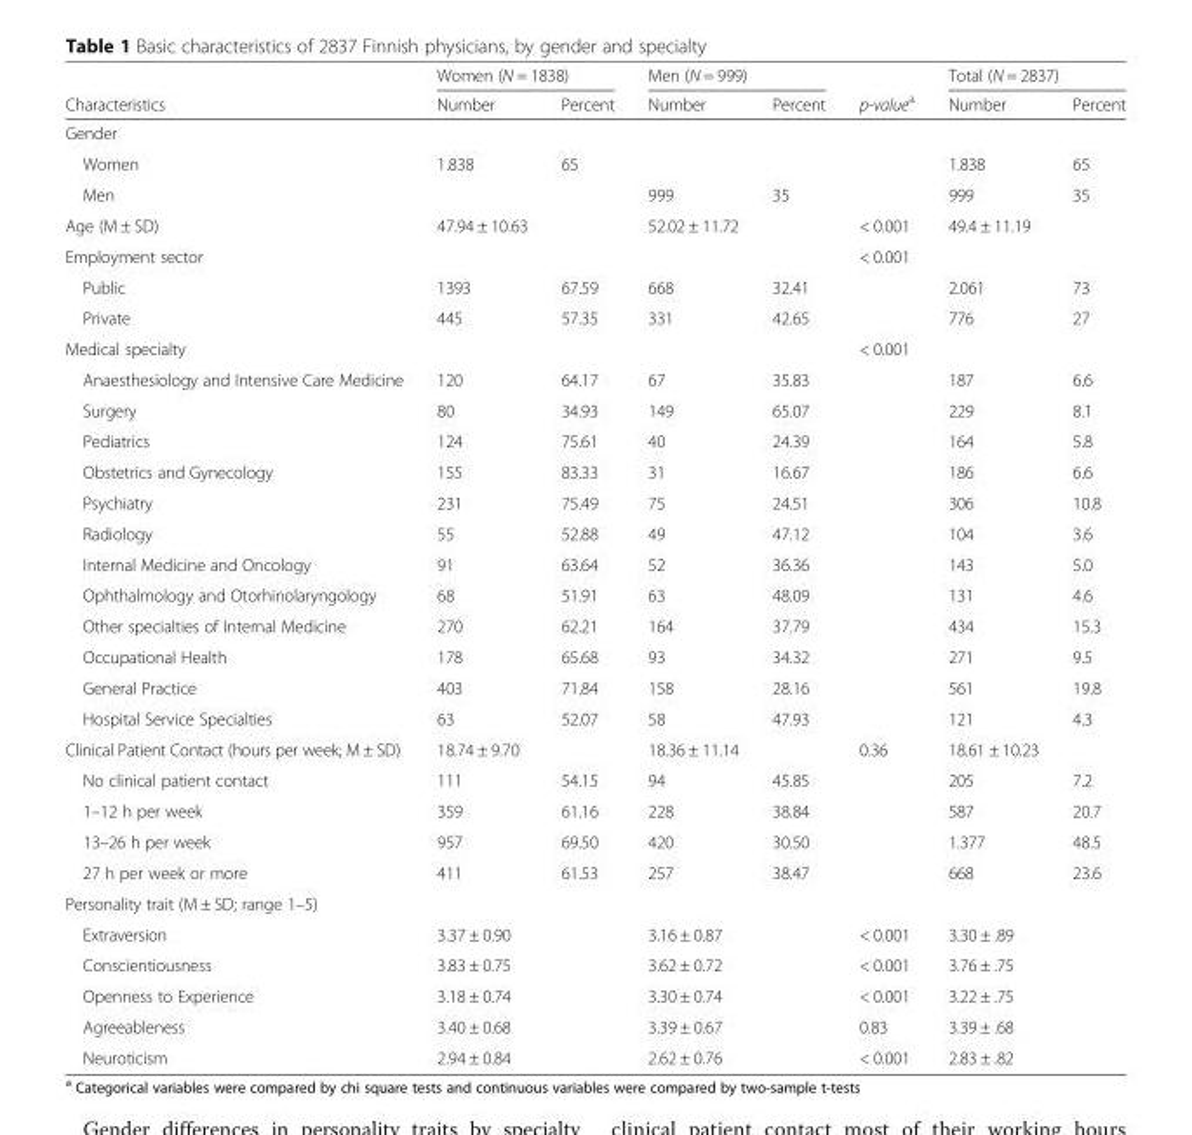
<table><thead><tr><td rowspan="2">Characteristics</td><td colspan="2">Women (N = 1838)</td><td colspan="2">Men (N = 999)</td><td rowspan="2">p-value<sup>a</sup></td><td colspan="2">Total (N = 2837)</td></tr><tr><td>Number</td><td>Percent</td><td>Number</td><td>Percent</td><td>Number</td><td>Percent</td></tr></thead><tbody><tr><td colspan="8">Gender</td></tr><tr><td>Women</td><td>1.838</td><td>65</td><td></td><td></td><td></td><td>1.838</td><td>65</td></tr><tr><td>Men</td><td></td><td></td><td>999</td><td>35</td><td></td><td>999</td><td>35</td></tr><tr><td>Age (M ± SD)</td><td>47.94 ± 10.63</td><td></td><td>52.02 ± 11.72</td><td></td><td>&lt; 0.001</td><td>49.4 ± 11.19</td><td></td></tr><tr><td>Employment sector</td><td></td><td></td><td></td><td></td><td>&lt; 0.001</td><td></td><td></td></tr><tr><td>Public</td><td>1393</td><td>67.59</td><td>668</td><td>32.41</td><td></td><td>2.061</td><td>73</td></tr><tr><td>Private</td><td>445</td><td>57.35</td><td>331</td><td>42.65</td><td></td><td>776</td><td>27</td></tr><tr><td>Medical specialty</td><td></td><td></td><td></td><td></td><td>&lt; 0.001</td><td></td><td></td></tr><tr><td>Anaesthesiology and Intensive Care Medicine</td><td>120</td><td>64.17</td><td>67</td><td>35.83</td><td></td><td>187</td><td>6.6</td></tr><tr><td>Surgery</td><td>80</td><td>34.93</td><td>149</td><td>65.07</td><td></td><td>229</td><td>8.1</td></tr><tr><td>Pediatrics</td><td>124</td><td>75.61</td><td>40</td><td>24.39</td><td></td><td>164</td><td>5.8</td></tr><tr><td>Obstetrics and Gynecology</td><td>155</td><td>83.33</td><td>31</td><td>16.67</td><td></td><td>186</td><td>6.6</td></tr><tr><td>Psychiatry</td><td>231</td><td>75.49</td><td>75</td><td>24.51</td><td></td><td>306</td><td>10.8</td></tr><tr><td>Radiology</td><td>55</td><td>52.88</td><td>49</td><td>47.12</td><td></td><td>104</td><td>3.6</td></tr><tr><td>Internal Medicine and Oncology</td><td>91</td><td>63.64</td><td>52</td><td>36.36</td><td></td><td>143</td><td>5.0</td></tr><tr><td>Ophthalmology and Otorhinolaryngology</td><td>68</td><td>51.91</td><td>63</td><td>48.09</td><td></td><td>131</td><td>4.6</td></tr><tr><td>Other specialties of Internal Medicine</td><td>270</td><td>62.21</td><td>164</td><td>37.79</td><td></td><td>434</td><td>15.3</td></tr><tr><td>Occupational Health</td><td>178</td><td>65.68</td><td>93</td><td>34.32</td><td></td><td>271</td><td>9.5</td></tr><tr><td>General Practice</td><td>403</td><td>71.84</td><td>158</td><td>28.16</td><td></td><td>561</td><td>19.8</td></tr><tr><td>Hospital Service Specialties</td><td>63</td><td>52.07</td><td>58</td><td>47.93</td><td></td><td>121</td><td>4.3</td></tr><tr><td>Clinical Patient Contact (hours per week; M ± SD)</td><td>18.74 ± 9.70</td><td></td><td>18.36 ± 11.14</td><td></td><td>0.36</td><td>18.61 ± 10.23</td><td></td></tr><tr><td>No clinical patient contact</td><td>111</td><td>54.15</td><td>94</td><td>45.85</td><td></td><td>205</td><td>7.2</td></tr><tr><td>1–12 h per week</td><td>359</td><td>61.16</td><td>228</td><td>38.84</td><td></td><td>587</td><td>20.7</td></tr><tr><td>13–26 h per week</td><td>957</td><td>69.50</td><td>420</td><td>30.50</td><td></td><td>1.377</td><td>48.5</td></tr><tr><td>27 h per week or more</td><td>411</td><td>61.53</td><td>257</td><td>38.47</td><td></td><td>668</td><td>23.6</td></tr><tr><td colspan="8">Personality trait (M ± SD; range 1–5)</td></tr><tr><td>Extraversion</td><td>3.37 ± 0.90</td><td></td><td>3.16 ± 0.87</td><td></td><td>&lt; 0.001</td><td>3.30 ± .89</td><td></td></tr><tr><td>Conscientiousness</td><td>3.83 ± 0.75</td><td></td><td>3.62 ± 0.72</td><td></td><td>&lt; 0.001</td><td>3.76 ± .75</td><td></td></tr><tr><td>Openness to Experience</td><td>3.18 ± 0.74</td><td></td><td>3.30 ± 0.74</td><td></td><td>&lt; 0.001</td><td>3.22 ± .75</td><td></td></tr><tr><td>Agreeableness</td><td>3.40 ± 0.68</td><td></td><td>3.39 ± 0.67</td><td></td><td>0.83</td><td>3.39 ± .68</td><td></td></tr><tr><td>Neuroticism</td><td>2.94 ± 0.84</td><td></td><td>2.62 ± 0.76</td><td></td><td>&lt; 0.001</td><td>2.83 ± .82</td><td></td></tr></tbody></table>